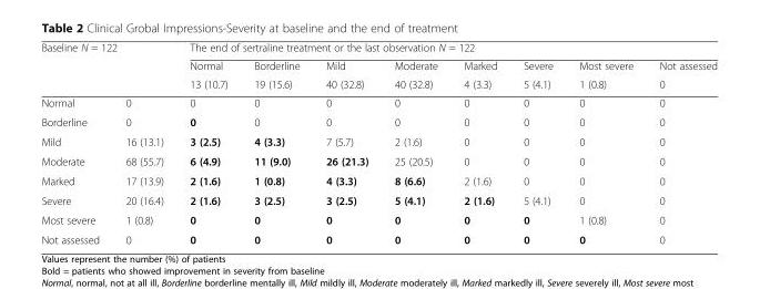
<table><thead><tr><td rowspan="3" colspan="2">Baseline N = 122</td><td colspan="8">The end of sertraline treatment or the last observation N = 122</td></tr><tr><td rowspan="3">Normal 13 (10.7) 0</td><td rowspan="3">Borderline 19 (15.6) 0</td><td rowspan="3">Mild 40 (32.8) 0</td><td rowspan="3">Moderate 40 (32.8) 0</td><td rowspan="3">Marked 4 (3.3) 0</td><td rowspan="3">Severe 5 (4.1) 0</td><td rowspan="3">Most severe 1 (0.8) 0</td><td rowspan="3">Not assessed 0 0</td></tr><tr></tr><tr><td>Normal</td><td>0</td></tr></thead><tbody><tr><td>Borderline</td><td>0</td><td>0</td><td>0</td><td>0</td><td>0</td><td>0</td><td>0</td><td>0</td><td>0</td></tr><tr><td>Mild</td><td>16 (13.1)</td><td>3 (2.5)</td><td>4 (3.3)</td><td>7 (5.7)</td><td>2 (1.6)</td><td>0</td><td>0</td><td>0</td><td>0</td></tr><tr><td>Moderate</td><td>68 (55.7)</td><td>6 (4.9)</td><td>11 (9.0)</td><td>26 (21.3)</td><td>25 (20.5)</td><td>0</td><td>0</td><td>0</td><td>0</td></tr><tr><td>Marked</td><td>17 (13.9)</td><td>2 (1.6)</td><td>1 (0.8)</td><td>4 (3.3)</td><td>8 (6.6)</td><td>2 (1.6)</td><td>0</td><td>0</td><td>0</td></tr><tr><td>Severe</td><td>20 (16.4)</td><td>2 (1.6)</td><td>3 (2.5)</td><td>3 (2.5)</td><td>5 (4.1)</td><td>2 (1.6)</td><td>5 (4.1)</td><td>0</td><td>0</td></tr><tr><td>Most severe</td><td>1 (0.8)</td><td>0</td><td>0</td><td>0</td><td>0</td><td>0</td><td>0</td><td>1 (0.8)</td><td>0</td></tr><tr><td>Not assessed</td><td>0</td><td>0</td><td>0</td><td>0</td><td>0</td><td>0</td><td>0</td><td>0</td><td>0</td></tr></tbody></table>